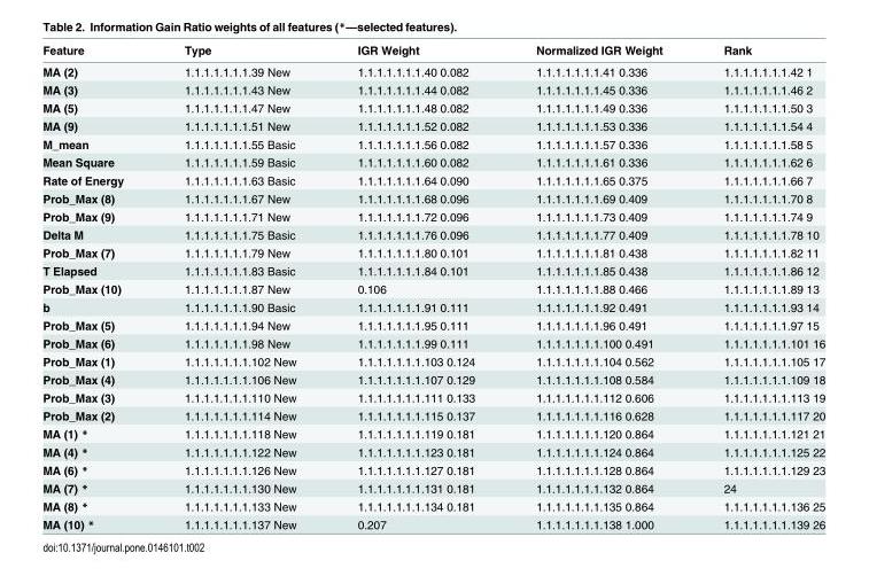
<table><thead><tr><td>Feature</td><td>Type</td><td>IGR Weight</td><td>Normalized IGR Weight</td><td>Rank</td></tr></thead><tbody><tr><td>MA (2)</td><td>1.1.1.1.1.1.1.39 New</td><td>1.1.1.1.1.1.1.40 0.082</td><td>1.1.1.1.1.1.1.41 0.336</td><td>1.1.1.1.1.1.1.42 1</td></tr><tr><td>MA (3)</td><td>1.1.1.1.1.1.1.43 New</td><td>1.1.1.1.1.1.1.44 0.082</td><td>1.1.1.1.1.1.1.45 0.336</td><td>1.1.1.1.1.1.1.46 2</td></tr><tr><td>MA (5)</td><td>1.1.1.1.1.1.1.47 New</td><td>1.1.1.1.1.1.1.48 0.082</td><td>1.1.1.1.1.1.1.49 0.336</td><td>1.1.1.1.1.1.1.50 3</td></tr><tr><td>MA (9)</td><td>1.1.1.1.1.1.1.51 New</td><td>1.1.1.1.1.1.1.52 0.082</td><td>1.1.1.1.1.1.1.53 0.336</td><td>1.1.1.1.1.1.1.54 4</td></tr><tr><td>M_mean</td><td>1.1.1.1.1.1.1.55 Basic</td><td>1.1.1.1.1.1.1.56 0.082</td><td>1.1.1.1.1.1.1.57 0.336</td><td>1.1.1.1.1.1.1.58 5</td></tr><tr><td>Mean Square</td><td>1.1.1.1.1.1.1.59 Basic</td><td>1.1.1.1.1.1.1.60 0.082</td><td>1.1.1.1.1.1.1.61 0.336</td><td>1.1.1.1.1.1.1.62 6</td></tr><tr><td>Rate of Energy</td><td>1.1.1.1.1.1.1.63 Basic</td><td>1.1.1.1.1.1.1.64 0.090</td><td>1.1.1.1.1.1.1.65 0.375</td><td>1.1.1.1.1.1.1.66 7</td></tr><tr><td>Prob_Max (8)</td><td>1.1.1.1.1.1.1.67 New</td><td>1.1.1.1.1.1.1.68 0.096</td><td>1.1.1.1.1.1.1.69 0.409</td><td>1.1.1.1.1.1.1.70 8</td></tr><tr><td>Prob_Max (9)</td><td>1.1.1.1.1.1.1.71 New</td><td>1.1.1.1.1.1.1.72 0.096</td><td>1.1.1.1.1.1.1.73 0.409</td><td>1.1.1.1.1.1.1.74 9</td></tr><tr><td>Delta M</td><td>1.1.1.1.1.1.1.75 Basic</td><td>1.1.1.1.1.1.1.76 0.096</td><td>1.1.1.1.1.1.1.77 0.409</td><td>1.1.1.1.1.1.1.78 10</td></tr><tr><td>Prob_Max (7)</td><td>1.1.1.1.1.1.1.79 New</td><td>1.1.1.1.1.1.1.80 0.101</td><td>1.1.1.1.1.1.1.81 0.438</td><td>1.1.1.1.1.1.1.82 11</td></tr><tr><td>T Elapsed</td><td>1.1.1.1.1.1.1.83 Basic</td><td>1.1.1.1.1.1.1.84 0.101</td><td>1.1.1.1.1.1.1.85 0.438</td><td>1.1.1.1.1.1.1.86 12</td></tr><tr><td>Prob_Max (10)</td><td>1.1.1.1.1.1.1.87 New</td><td>0.106</td><td>1.1.1.1.1.1.1.88 0.466</td><td>1.1.1.1.1.1.1.89 13</td></tr><tr><td>b</td><td>1.1.1.1.1.1.1.90 Basic</td><td>1.1.1.1.1.1.1.91 0.111</td><td>1.1.1.1.1.1.1.92 0.491</td><td>1.1.1.1.1.1.1.93 14</td></tr><tr><td>Prob_Max (5)</td><td>1.1.1.1.1.1.1.94 New</td><td>1.1.1.1.1.1.1.95 0.111</td><td>1.1.1.1.1.1.1.96 0.491</td><td>1.1.1.1.1.1.1.97 15</td></tr><tr><td>Prob_Max (6)</td><td>1.1.1.1.1.1.1.98 New</td><td>1.1.1.1.1.1.1.99 0.111</td><td>1.1.1.1.1.1.1.100 0.491</td><td>1.1.1.1.1.1.1.101 16</td></tr><tr><td>Prob_Max (1)</td><td>1.1.1.1.1.1.1.102 New</td><td>1.1.1.1.1.1.1.103 0.124</td><td>1.1.1.1.1.1.1.104 0.562</td><td>1.1.1.1.1.1.1.105 17</td></tr><tr><td>Prob_Max (4)</td><td>1.1.1.1.1.1.1.106 New</td><td>1.1.1.1.1.1.1.107 0.129</td><td>1.1.1.1.1.1.1.108 0.584</td><td>1.1.1.1.1.1.1.109 18</td></tr><tr><td>Prob_Max (3)</td><td>1.1.1.1.1.1.1.110 New</td><td>1.1.1.1.1.1.1.111 0.133</td><td>1.1.1.1.1.1.1.112 0.606</td><td>1.1.1.1.1.1.1.113 19</td></tr><tr><td>Prob_Max (2)</td><td>1.1.1.1.1.1.1.114 New</td><td>1.1.1.1.1.1.1.115 0.137</td><td>1.1.1.1.1.1.1.116 0.628</td><td>1.1.1.1.1.1.1.117 20</td></tr><tr><td>MA (1) *</td><td>1.1.1.1.1.1.1.118 New</td><td>1.1.1.1.1.1.1.119 0.181</td><td>1.1.1.1.1.1.1.120 0.864</td><td>1.1.1.1.1.1.1.121 21</td></tr><tr><td>MA (4) *</td><td>1.1.1.1.1.1.1.122 New</td><td>1.1.1.1.1.1.1.123 0.181</td><td>1.1.1.1.1.1.1.124 0.864</td><td>1.1.1.1.1.1.1.125 22</td></tr><tr><td>MA (6) *</td><td>1.1.1.1.1.1.1.126 New</td><td>1.1.1.1.1.1.1.127 0.181</td><td>1.1.1.1.1.1.1.128 0.864</td><td>1.1.1.1.1.1.1.129 23</td></tr><tr><td>MA (7) *</td><td>1.1.1.1.1.1.1.130 New</td><td>1.1.1.1.1.1.1.131 0.181</td><td>1.1.1.1.1.1.1.132 0.864</td><td>24</td></tr><tr><td>MA (8) *</td><td>1.1.1.1.1.1.1.133 New</td><td>1.1.1.1.1.1.1.134 0.181</td><td>1.1.1.1.1.1.1.135 0.864</td><td>1.1.1.1.1.1.1.136 25</td></tr><tr><td>MA (10) *</td><td>1.1.1.1.1.1.1.137 New</td><td>0.207</td><td>1.1.1.1.1.1.1.138 1.000</td><td>1.1.1.1.1.1.1.139 26</td></tr></tbody></table>